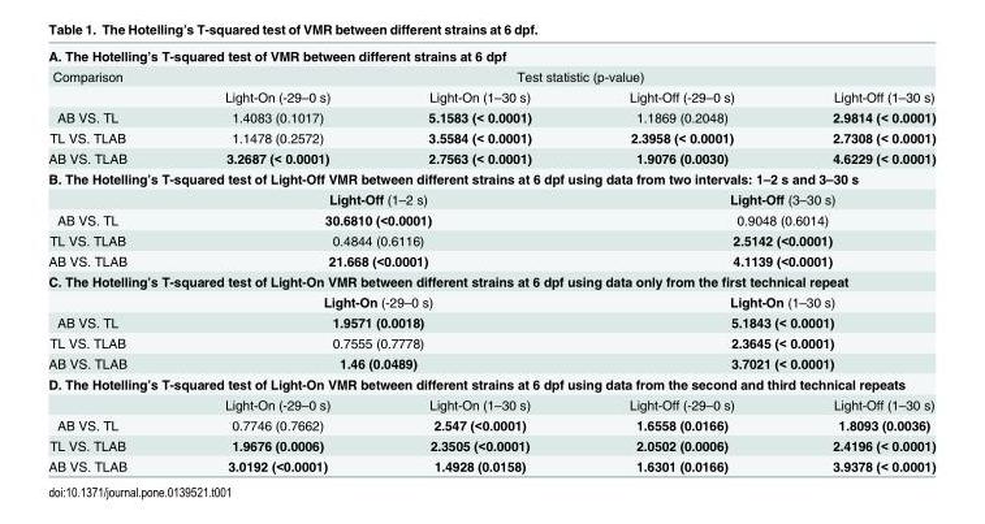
<table><tbody><tr><td colspan="5">A. The Hotelling’s T-squared test of VMR between different strains at 6 dpf</td></tr><tr><td rowspan="2">Comparison</td><td colspan="4">Test statistic (p-value)</td></tr><tr><td>Light-On (-29–0 s)</td><td>Light-On (1–30 s)</td><td>Light-Off (-29–0 s)</td><td>Light-Off (1–30 s)</td></tr><tr><td>AB VS. TL</td><td>1.4083 (0.1017)</td><td>5.1583 (&lt; 0.0001)</td><td>1.1869 (0.2048)</td><td>2.9814 (&lt; 0.0001)</td></tr><tr><td>TL VS. TLAB</td><td>1.1478 (0.2572)</td><td>3.5584 (&lt; 0.0001)</td><td>2.3958 (&lt; 0.0001)</td><td>2.7308 (&lt; 0.0001)</td></tr><tr><td>AB VS. TLAB</td><td>3.2687 (&lt; 0.0001)</td><td>2.7563 (&lt; 0.0001)</td><td>1.9076 (0.0030)</td><td>4.6229 (&lt; 0.0001)</td></tr><tr><td colspan="5">B. The Hotelling’s T-squared test of Light-Off VMR between different strains at 6 dpf using data from two intervals: 1–2 s and 3–30 s</td></tr><tr><td></td><td colspan="2">Light-Off (1–2 s)</td><td colspan="2">Light-Off (3–30 s)</td></tr><tr><td>AB VS. TL</td><td colspan="2">30.6810 (&lt;0.0001)</td><td colspan="2">0.9048 (0.6014)</td></tr><tr><td>TL VS. TLAB</td><td colspan="2">0.4844 (0.6116)</td><td colspan="2">2.5142 (&lt;0.0001)</td></tr><tr><td>AB VS. TLAB</td><td colspan="2">21.668 (&lt;0.0001)</td><td colspan="2">4.1139 (&lt;0.0001)</td></tr><tr><td colspan="5">C. The Hotelling’s T-squared test of Light-On VMR between different strains at 6 dpf using data only from the first technical repeat</td></tr><tr><td></td><td colspan="2">Light-On (-29–0 s)</td><td colspan="2">Light-On (1–30 s)</td></tr><tr><td>AB VS. TL</td><td colspan="2">1.9571 (0.0018)</td><td colspan="2">5.1843 (&lt; 0.0001)</td></tr><tr><td>TL VS. TLAB</td><td colspan="2">0.7555 (0.7778)</td><td colspan="2">2.3645 (&lt; 0.0001)</td></tr><tr><td>AB VS. TLAB</td><td colspan="2">1.46 (0.0489)</td><td colspan="2">3.7021 (&lt; 0.0001)</td></tr><tr><td colspan="5">D. The Hotelling’s T-squared test of Light-On VMR between different strains at 6 dpf using data from the second and third technical repeats</td></tr><tr><td></td><td>Light-On (-29–0 s)</td><td>Light-On (1–30 s)</td><td>Light-Off (-29–0 s)</td><td>Light-Off (1–30 s)</td></tr><tr><td>AB VS. TL</td><td>0.7746 (0.7662)</td><td>2.547 (&lt;0.0001)</td><td>1.6558 (0.0166)</td><td>1.8093 (0.0036)</td></tr><tr><td>TL VS. TLAB</td><td>1.9676 (0.0006)</td><td>2.3505 (&lt;0.0001)</td><td>2.0502 (0.0006)</td><td>2.4196 (&lt; 0.0001)</td></tr><tr><td>AB VS. TLAB</td><td>3.0192 (&lt;0.0001)</td><td>1.4928 (0.0158)</td><td>1.6301 (0.0166)</td><td>3.9378 (&lt; 0.0001)</td></tr></tbody></table>